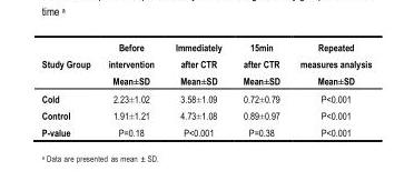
<table><thead><tr><td>Study Group</td><td>Before intervention Mean±SD</td><td>Immediately after CTR Mean±SD</td><td>15min after CTR Mean±SD</td><td>Repeated measures analysis Mean±SD</td></tr></thead><tbody><tr><td>Cold</td><td>2.23±1.02</td><td>3.58±1.09</td><td>0.72±0.79</td><td>P&lt;0.001</td></tr><tr><td>Control</td><td>1.91±1.21</td><td>4.73±1.08</td><td>0.89±0.97</td><td>P&lt;0.001</td></tr><tr><td>P-value</td><td>P=0.18</td><td>P&lt;0.001</td><td>P=0.38</td><td>P&lt;0.001</td></tr></tbody></table>